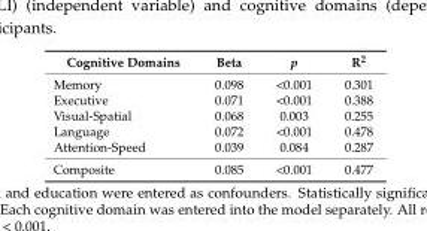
<table><thead><tr><td>Cognitive Domains</td><td>Beta</td><td>p</td><td>R<sup>2</sup></td></tr></thead><tbody><tr><td>Memory</td><td>0.098</td><td>&lt;0.001</td><td>0.301</td></tr><tr><td>Executive</td><td>0.071</td><td>&lt;0.001</td><td>0.388</td></tr><tr><td>Visual-Spatial</td><td>0.068</td><td>0.003</td><td>0.255</td></tr><tr><td>Language</td><td>0.072</td><td>&lt;0.001</td><td>0.478</td></tr><tr><td>Attention-Speed</td><td>0.039</td><td>0.084</td><td>0.287</td></tr><tr><td>Composite</td><td>0.085</td><td>&lt;0.001</td><td>0.477</td></tr></tbody></table>